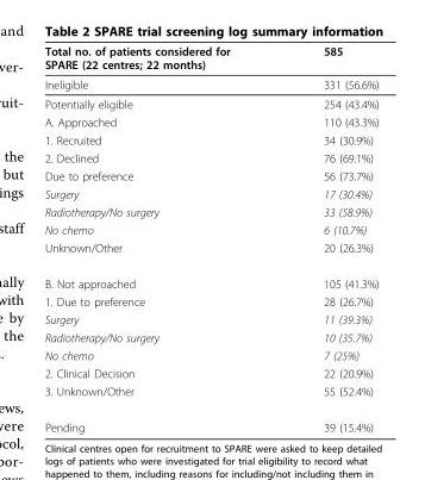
<table><thead><tr><td>Total no. of patients considered for SPARE (22 centres; 22 months)</td><td>585</td></tr></thead><tbody><tr><td>Ineligible</td><td>331 (56.6%)</td></tr><tr><td>Potentially eligible</td><td>254 (43.4%)</td></tr><tr><td>A. Approached</td><td>110 (43.3%)</td></tr><tr><td>1. Recruited</td><td>34 (30.9%)</td></tr><tr><td>2. Declined</td><td>76 (69.1%)</td></tr><tr><td>Due to preference</td><td>56 (73.7%)</td></tr><tr><td>Surgery</td><td>17 (30.4%)</td></tr><tr><td>Radiotherapy/No surgery</td><td>33 (58.9%)</td></tr><tr><td>No chemo</td><td>6 (10.7%)</td></tr><tr><td>Unknown/Other</td><td>20 (26.3%)</td></tr><tr><td>B. Not approached</td><td>105 (41.3%)</td></tr><tr><td>1. Due to preference</td><td>28 (26.7%)</td></tr><tr><td>Surgery</td><td>11 (39.3%)</td></tr><tr><td>Radiotherapy/No surgery</td><td>10 (35.7%)</td></tr><tr><td>No chemo</td><td>7 (25%)</td></tr><tr><td>2. Clinical Decision</td><td>22 (20.9%)</td></tr><tr><td>3. Unknown/Other</td><td>55 (52.4%)</td></tr><tr><td>Pending</td><td>39 (15.4%)</td></tr></tbody></table>